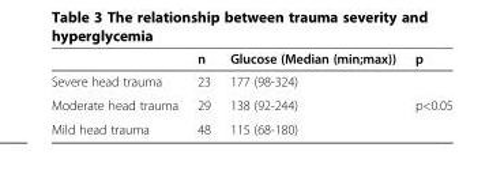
<table><thead><tr><td></td><td>n</td><td>Glucose (Median (min;max))</td><td>p</td></tr></thead><tbody><tr><td>Severe head trauma</td><td>23</td><td>177 (98-324)</td><td rowspan="3">p&lt;0.05</td></tr><tr><td>Moderate head trauma</td><td>29</td><td>138 (92-244)</td></tr><tr><td>Mild head trauma</td><td>48</td><td>115 (68-180)</td></tr></tbody></table>